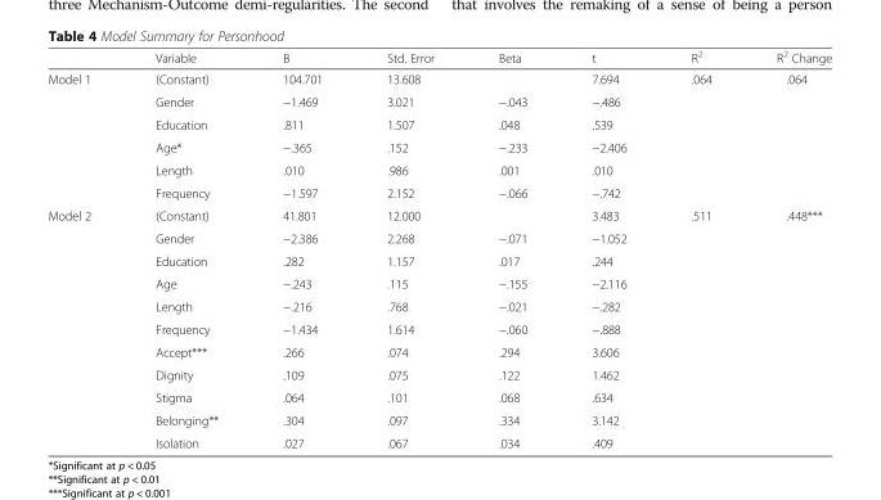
<table><thead><tr><td></td><td>Variable</td><td>B</td><td>Std. Error</td><td>Beta</td><td>t</td><td>R<sup>2</sup></td><td>R<sup>2</sup> Change</td></tr></thead><tbody><tr><td rowspan="6">Model 1</td><td>(Constant)</td><td>104.701</td><td>13.608</td><td></td><td>7.694</td><td>.064</td><td>.064</td></tr><tr><td>Gender</td><td>−1.469</td><td>3.021</td><td>−.043</td><td>−.486</td><td></td><td></td></tr><tr><td>Education</td><td>.811</td><td>1.507</td><td>.048</td><td>.539</td><td></td><td></td></tr><tr><td>Age*</td><td>−.365</td><td>.152</td><td>−.233</td><td>−2.406</td><td></td><td></td></tr><tr><td>Length</td><td>.010</td><td>.986</td><td>.001</td><td>.010</td><td></td><td></td></tr><tr><td>Frequency</td><td>−1.597</td><td>2.152</td><td>−.066</td><td>−.742</td><td></td><td></td></tr><tr><td rowspan="11">Model 2</td><td>(Constant)</td><td>41.801</td><td>12.000</td><td></td><td>3.483</td><td>.511</td><td>.448***</td></tr><tr><td>Gender</td><td>−2.386</td><td>2.268</td><td>−.071</td><td>−1.052</td><td></td><td></td></tr><tr><td>Education</td><td>.282</td><td>1.157</td><td>.017</td><td>.244</td><td></td><td></td></tr><tr><td>Age</td><td>−.243</td><td>.115</td><td>−.155</td><td>−2.116</td><td></td><td></td></tr><tr><td>Length</td><td>−.216</td><td>.768</td><td>−.021</td><td>−.282</td><td></td><td></td></tr><tr><td>Frequency</td><td>−1.434</td><td>1.614</td><td>−.060</td><td>−.888</td><td></td><td></td></tr><tr><td>Accept***</td><td>.266</td><td>.074</td><td>.294</td><td>3.606</td><td></td><td></td></tr><tr><td>Dignity</td><td>.109</td><td>.075</td><td>.122</td><td>1.462</td><td></td><td></td></tr><tr><td>Stigma</td><td>.064</td><td>.101</td><td>.068</td><td>.634</td><td></td><td></td></tr><tr><td>Belonging**</td><td>.304</td><td>.097</td><td>.334</td><td>3.142</td><td></td><td></td></tr><tr><td>Isolation</td><td>.027</td><td>.067</td><td>.034</td><td>.409</td><td></td><td></td></tr></tbody></table>